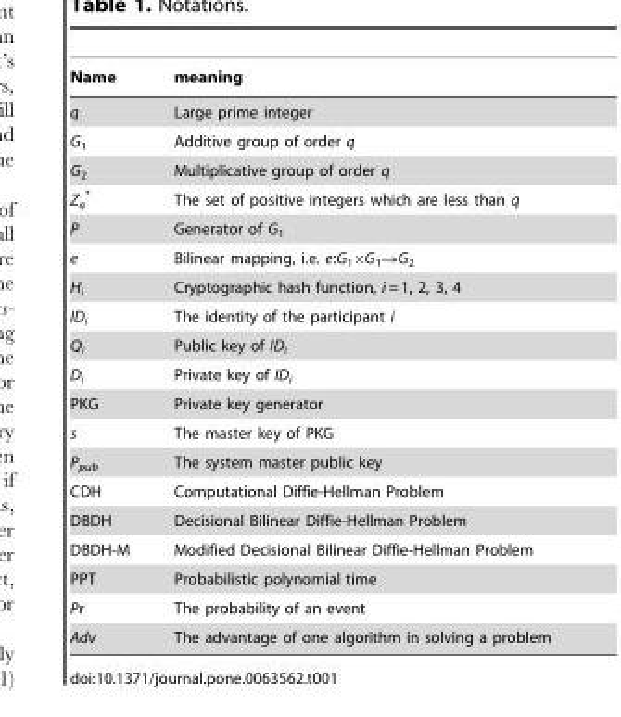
<table><thead><tr><td>Name</td><td>meaning</td></tr></thead><tbody><tr><td>q</td><td>Large prime integer</td></tr><tr><td>G<sub>1</sub></td><td>Additive group of order q</td></tr><tr><td>G<sub>2</sub></td><td>Multiplicative group of order q</td></tr><tr><td>Z<sub>q</sub> *</td><td>The set of positive integers which are less than q</td></tr><tr><td>P</td><td>Generator of G<sub>1</sub></td></tr><tr><td>e</td><td>Bilinear mapping, i.e. e:G<sub>1</sub>×G<sub>1</sub>→G<sub>2</sub></td></tr><tr><td>H<sub>i</sub></td><td>Cryptographic hash function, i = 1, 2, 3, 4</td></tr><tr><td>ID<sub>i</sub></td><td>The identity of the participant i</td></tr><tr><td>Q<sub>i</sub></td><td>Public key of ID<sub>i</sub></td></tr><tr><td>D<sub>i</sub></td><td>Private key of ID<sub>i</sub></td></tr><tr><td>PKG</td><td>Private key generator</td></tr><tr><td>s</td><td>The master key of PKG</td></tr><tr><td>P<sub>pub</sub></td><td>The system master public key</td></tr><tr><td>CDH</td><td>Computational Diffie-Hellman Problem</td></tr><tr><td>DBDH</td><td>Decisional Bilinear Diffie-Hellman Problem</td></tr><tr><td>DBDH-M</td><td>Modified Decisional Bilinear Diffie-Hellman Problem</td></tr><tr><td>PPT</td><td>Probabilistic polynomial time</td></tr><tr><td>Pr</td><td>The probability of an event</td></tr><tr><td>Adv</td><td>The advantage of one algorithm in solving a problem</td></tr></tbody></table>